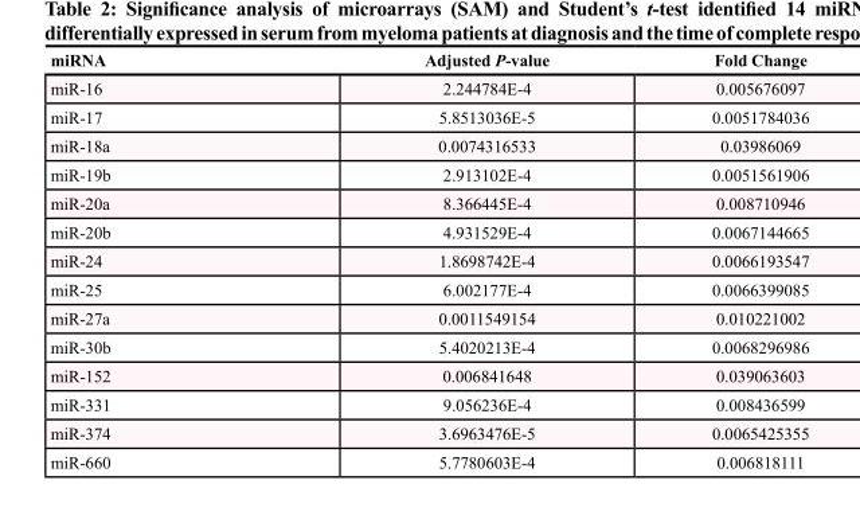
<table><thead><tr><td>miRNA</td><td>Adjusted P-value</td><td>Fold Change</td></tr></thead><tbody><tr><td>miR-16</td><td>2.244784E-4</td><td>0.005676097</td></tr><tr><td>miR-17</td><td>5.8513036E-5</td><td>0.0051784036</td></tr><tr><td>miR-18a</td><td>0.0074316533</td><td>0.03986069</td></tr><tr><td>miR-19b</td><td>2.913102E-4</td><td>0.0051561906</td></tr><tr><td>miR-20a</td><td>8.366445E-4</td><td>0.008710946</td></tr><tr><td>miR-20b</td><td>4.931529E-4</td><td>0.0067144665</td></tr><tr><td>miR-24</td><td>1.8698742E-4</td><td>0.0066193547</td></tr><tr><td>miR-25</td><td>6.002177E-4</td><td>0.0066399085</td></tr><tr><td>miR-27a</td><td>0.0011549154</td><td>0.010221002</td></tr><tr><td>miR-30b</td><td>5.4020213E-4</td><td>0.0068296986</td></tr><tr><td>miR-152</td><td>0.006841648</td><td>0.039063603</td></tr><tr><td>miR-331</td><td>9.056236E-4</td><td>0.008436599</td></tr><tr><td>miR-374</td><td>3.6963476E-5</td><td>0.0065425355</td></tr><tr><td>miR-660</td><td>5.7780603E-4</td><td>0.006818111</td></tr></tbody></table>